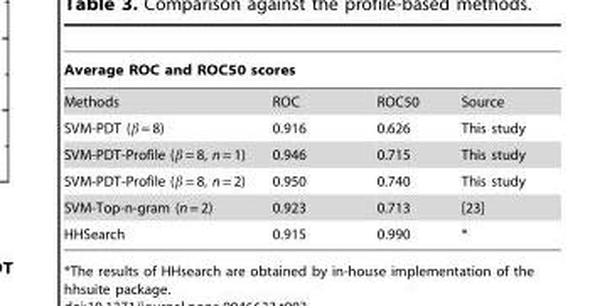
<table><thead><tr><td colspan="4">Average ROC and ROC50 scores</td></tr><tr><td>Methods</td><td>ROC</td><td>ROC50</td><td>Source</td></tr></thead><tbody><tr><td>SVM-PDT (β = 8)</td><td>0.916</td><td>0.626</td><td>This study</td></tr><tr><td>SVM-PDT-Profile (β = 8, n = 1)</td><td>0.946</td><td>0.715</td><td>This study</td></tr><tr><td>SVM-PDT-Profile (β = 8, n = 2)</td><td>0.950</td><td>0.740</td><td>This study</td></tr><tr><td>SVM-Top-n-gram (n = 2)</td><td>0.923</td><td>0.713</td><td>[23]</td></tr><tr><td>HHSearch</td><td>0.915</td><td>0.990</td><td>*</td></tr></tbody></table>